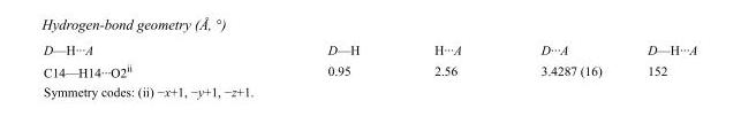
<table><tbody><tr><td>D—H···A</td><td>D—H</td><td>H···A</td><td>D···A</td><td>D—H···A</td></tr><tr><td>C14—H14···O2<sup>ii</sup></td><td>0.95</td><td>2.56</td><td>3.4287 (16)</td><td>152</td></tr></tbody></table>